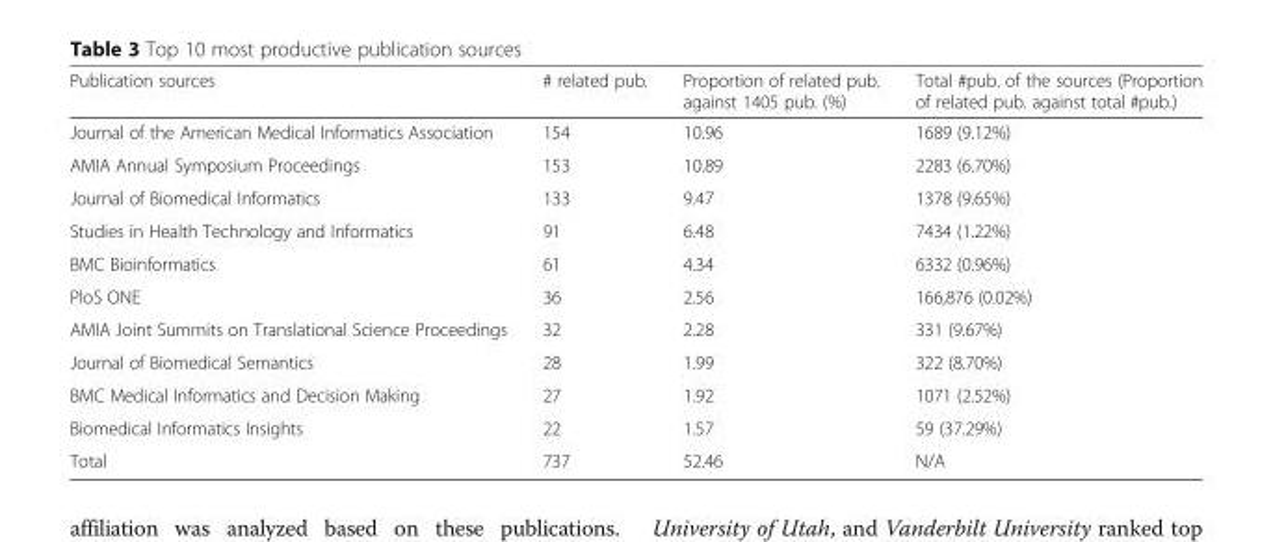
<table><thead><tr><td>Publication sources</td><td># related pub.</td><td>Proportion of related pub. against 1405 pub. (%)</td><td>Total #pub. of the sources (Proportion of related pub. against total #pub.)</td></tr></thead><tbody><tr><td>Journal of the American Medical Informatics Association</td><td>154</td><td>10.96</td><td>1689 (9.12%)</td></tr><tr><td>AMIA Annual Symposium Proceedings</td><td>153</td><td>10.89</td><td>2283 (6.70%)</td></tr><tr><td>Journal of Biomedical Informatics</td><td>133</td><td>9.47</td><td>1378 (9.65%)</td></tr><tr><td>Studies in Health Technology and Informatics</td><td>91</td><td>6.48</td><td>7434 (1.22%)</td></tr><tr><td>BMC Bioinformatics</td><td>61</td><td>4.34</td><td>6332 (0.96%)</td></tr><tr><td>PloS ONE</td><td>36</td><td>2.56</td><td>166,876 (0.02%)</td></tr><tr><td>AMIA Joint Summits on Translational Science Proceedings</td><td>32</td><td>2.28</td><td>331 (9.67%)</td></tr><tr><td>Journal of Biomedical Semantics</td><td>28</td><td>1.99</td><td>322 (8.70%)</td></tr><tr><td>BMC Medical Informatics and Decision Making</td><td>27</td><td>1.92</td><td>1071 (2.52%)</td></tr><tr><td>Biomedical Informatics Insights</td><td>22</td><td>1.57</td><td>59 (37.29%)</td></tr><tr><td>Total</td><td>737</td><td>52.46</td><td>N/A</td></tr></tbody></table>